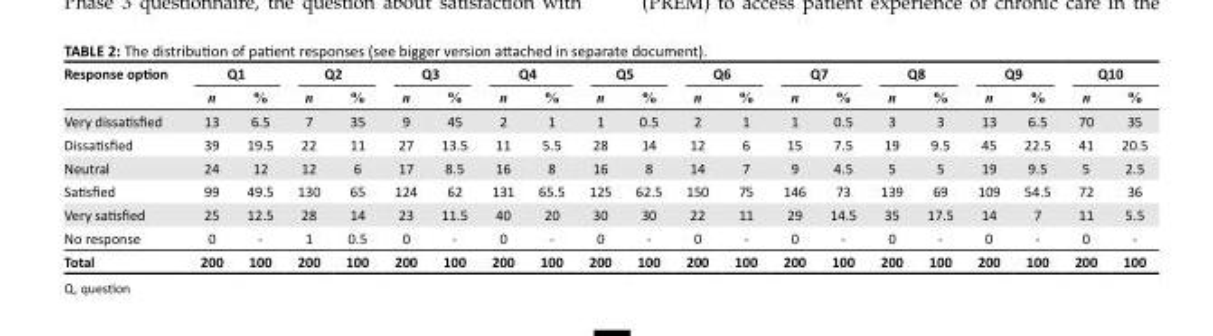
<table><thead><tr><td rowspan="2">Response option</td><td colspan="2">Q1</td><td colspan="2">Q2</td><td colspan="2">Q3</td><td colspan="2">Q4</td><td colspan="2">Q5</td><td colspan="2">Q6</td><td colspan="2">Q7</td><td colspan="2">Q8</td><td colspan="2">Q9</td><td colspan="2">Q10</td></tr><tr><td>n</td><td>%</td><td>n</td><td>%</td><td>n</td><td>%</td><td>n</td><td>%</td><td>n</td><td>%</td><td>n</td><td>%</td><td>n</td><td>%</td><td>n</td><td>%</td><td>n</td><td>%</td><td>n</td><td>%</td></tr></thead><tbody><tr><td>Very dissatisfied</td><td>13</td><td>6.5</td><td>7</td><td>35</td><td>9</td><td>45</td><td>2</td><td>1</td><td>1</td><td>0.5</td><td>2</td><td>1</td><td>1</td><td>0.5</td><td>3</td><td>3</td><td>13</td><td>6.5</td><td>70</td><td>35</td></tr><tr><td>Dissatisfied</td><td>39</td><td>19.5</td><td>22</td><td>11</td><td>27</td><td>13.5</td><td>11</td><td>5.5</td><td>28</td><td>14</td><td>12</td><td>6</td><td>15</td><td>7.5</td><td>19</td><td>9.5</td><td>45</td><td>22.5</td><td>41</td><td>20.5</td></tr><tr><td>Neutral</td><td>24</td><td>12</td><td>12</td><td>6</td><td>17</td><td>8.5</td><td>16</td><td>8</td><td>16</td><td>8</td><td>14</td><td>7</td><td>9</td><td>4.5</td><td>5</td><td>5</td><td>19</td><td>9.5</td><td>5</td><td>2.5</td></tr><tr><td>Satisfied</td><td>99</td><td>49.5</td><td>130</td><td>65</td><td>124</td><td>62</td><td>131</td><td>65.5</td><td>125</td><td>62.5</td><td>150</td><td>75</td><td>146</td><td>73</td><td>139</td><td>69</td><td>109</td><td>54.5</td><td>72</td><td>36</td></tr><tr><td>Very satisfied</td><td>25</td><td>12.5</td><td>28</td><td>14</td><td>23</td><td>11.5</td><td>40</td><td>20</td><td>30</td><td>30</td><td>22</td><td>11</td><td>29</td><td>14.5</td><td>35</td><td>17.5</td><td>14</td><td>7</td><td>11</td><td>5.5</td></tr><tr><td>No response</td><td>0</td><td>-</td><td>1</td><td>0.5</td><td>0</td><td>-</td><td>0</td><td>-</td><td>0</td><td>-</td><td>0</td><td>-</td><td>0</td><td>-</td><td>0</td><td>-</td><td>0</td><td>-</td><td>0</td><td>-</td></tr><tr><td>Total</td><td>200</td><td>100</td><td>200</td><td>100</td><td>200</td><td>100</td><td>200</td><td>100</td><td>200</td><td>100</td><td>200</td><td>100</td><td>200</td><td>100</td><td>200</td><td>100</td><td>200</td><td>100</td><td>200</td><td>100</td></tr></tbody></table>